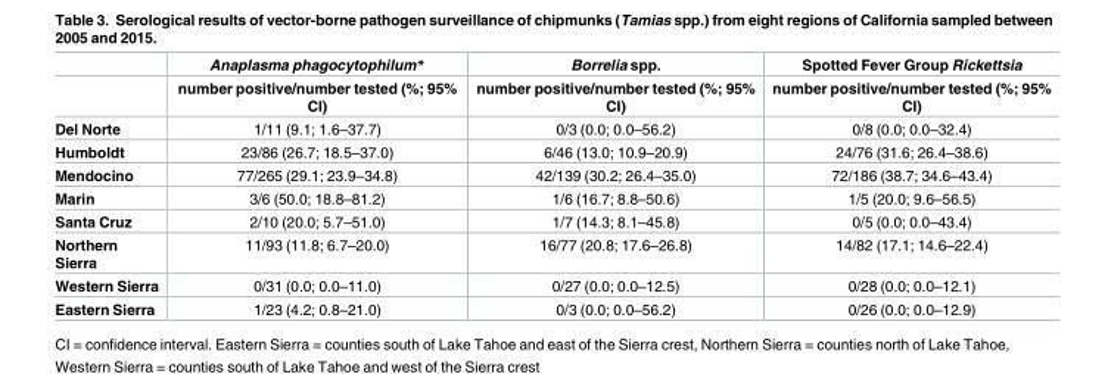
<table><thead><tr><td rowspan="2"></td><td rowspan="2">Anaplasma phagocytophilum* number positive/number tested (%; 95% CI)</td><td rowspan="2">Borrelia spp. number positive/number tested (%; 95% CI)</td><td rowspan="2">Spotted Fever Group Rickettsia number positive/number tested (%; 95% CI)</td></tr><tr></tr></thead><tbody><tr><td>Del Norte</td><td>1/11 (9.1; 1.6–37.7)</td><td>0/3 (0.0; 0.0–56.2)</td><td>0/8 (0.0; 0.0–32.4)</td></tr><tr><td>Humboldt</td><td>23/86 (26.7; 18.5–37.0)</td><td>6/46 (13.0; 10.9–20.9)</td><td>24/76 (31.6; 26.4–38.6)</td></tr><tr><td>Mendocino</td><td>77/265 (29.1; 23.9–34.8)</td><td>42/139 (30.2; 26.4–35.0)</td><td>72/186 (38.7; 34.6–43.4)</td></tr><tr><td>Marin</td><td>3/6 (50.0; 18.8–81.2)</td><td>1/6 (16.7; 8.8–50.6)</td><td>1/5 (20.0; 9.6–56.5)</td></tr><tr><td>Santa Cruz</td><td>2/10 (20.0; 5.7–51.0)</td><td>1/7 (14.3; 8.1–45.8)</td><td>0/5 (0.0; 0.0–43.4)</td></tr><tr><td>Northern Sierra</td><td>11/93 (11.8; 6.7–20.0)</td><td>16/77 (20.8; 17.6–26.8)</td><td>14/82 (17.1; 14.6–22.4)</td></tr><tr><td>Western Sierra</td><td>0/31 (0.0; 0.0–11.0)</td><td>0/27 (0.0; 0.0–12.5)</td><td>0/28 (0.0; 0.0–12.1)</td></tr><tr><td>Eastern Sierra</td><td>1/23 (4.2; 0.8–21.0)</td><td>0/3 (0.0; 0.0–56.2)</td><td>0/26 (0.0; 0.0–12.9)</td></tr></tbody></table>